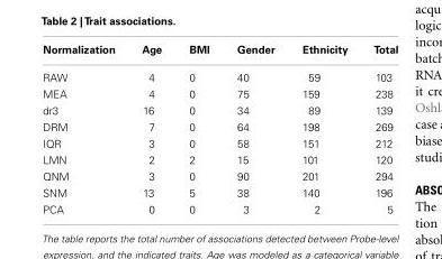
<table><thead><tr><td>Normalization</td><td>Age</td><td>BMI</td><td>Gender</td><td>Ethnicity</td><td>Total</td></tr></thead><tbody><tr><td>RAW</td><td>4</td><td>0</td><td>40</td><td>59</td><td>103</td></tr><tr><td>MEA</td><td>4</td><td>0</td><td>75</td><td>159</td><td>238</td></tr><tr><td>dr3</td><td>16</td><td>0</td><td>34</td><td>89</td><td>139</td></tr><tr><td>DRM</td><td>7</td><td>0</td><td>64</td><td>198</td><td>269</td></tr><tr><td>IQR</td><td>3</td><td>0</td><td>58</td><td>151</td><td>212</td></tr><tr><td>LMN</td><td>2</td><td>2</td><td>15</td><td>101</td><td>120</td></tr><tr><td>QNM</td><td>3</td><td>0</td><td>90</td><td>201</td><td>294</td></tr><tr><td>SNM</td><td>13</td><td>5</td><td>38</td><td>140</td><td>196</td></tr><tr><td>PCA</td><td>0</td><td>0</td><td>3</td><td>2</td><td>5</td></tr></tbody></table>